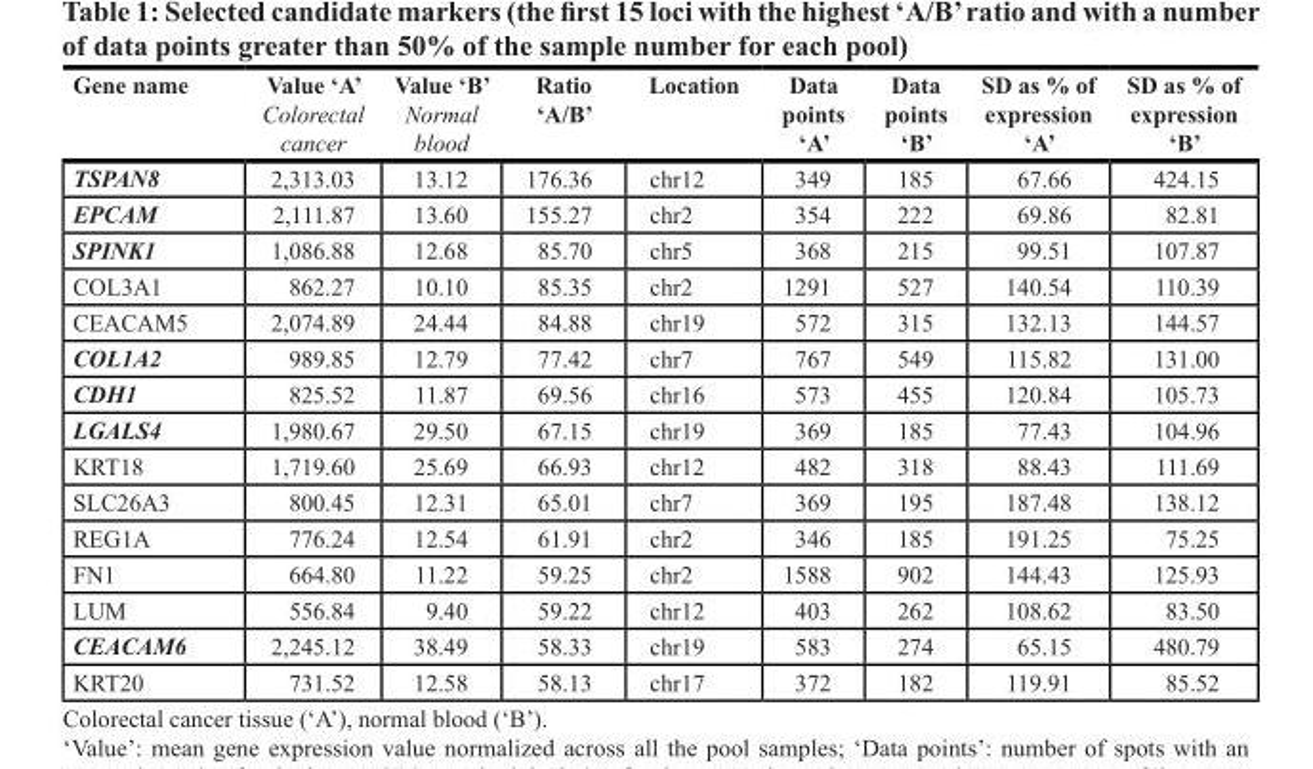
<table><thead><tr><td>Gene name</td><td>Value ‘A’ Colorectal cancer</td><td>Value ‘B’ Normal blood</td><td>Ratio ‘A/B’</td><td>Location</td><td>Data points ‘A’</td><td>Data points ‘B’</td><td>SD as % of expression ‘A’</td><td>SD as % of expression ‘B’</td></tr></thead><tbody><tr><td>TSPAN8</td><td>2,313.03</td><td>13.12</td><td>176.36</td><td>chr12</td><td>349</td><td>185</td><td>67.66</td><td>424.15</td></tr><tr><td>EPCAM</td><td>2,111.87</td><td>13.60</td><td>155.27</td><td>chr2</td><td>354</td><td>222</td><td>69.86</td><td>82.81</td></tr><tr><td>SPINK1</td><td>1,086.88</td><td>12.68</td><td>85.70</td><td>chr5</td><td>368</td><td>215</td><td>99.51</td><td>107.87</td></tr><tr><td>COL3A1</td><td>862.27</td><td>10.10</td><td>85.35</td><td>chr2</td><td>1291</td><td>527</td><td>140.54</td><td>110.39</td></tr><tr><td>CEACAM5</td><td>2,074.89</td><td>24.44</td><td>84.88</td><td>chr19</td><td>572</td><td>315</td><td>132.13</td><td>144.57</td></tr><tr><td>COL1A2</td><td>989.85</td><td>12.79</td><td>77.42</td><td>chr7</td><td>767</td><td>549</td><td>115.82</td><td>131.00</td></tr><tr><td>CDH1</td><td>825.52</td><td>11.87</td><td>69.56</td><td>chr16</td><td>573</td><td>455</td><td>120.84</td><td>105.73</td></tr><tr><td>LGALS4</td><td>1,980.67</td><td>29.50</td><td>67.15</td><td>chr19</td><td>369</td><td>185</td><td>77.43</td><td>104.96</td></tr><tr><td>KRT18</td><td>1,719.60</td><td>25.69</td><td>66.93</td><td>chr12</td><td>482</td><td>318</td><td>88.43</td><td>111.69</td></tr><tr><td>SLC26A3</td><td>800.45</td><td>12.31</td><td>65.01</td><td>chr7</td><td>369</td><td>195</td><td>187.48</td><td>138.12</td></tr><tr><td>REG1A</td><td>776.24</td><td>12.54</td><td>61.91</td><td>chr2</td><td>346</td><td>185</td><td>191.25</td><td>75.25</td></tr><tr><td>FN1</td><td>664.80</td><td>11.22</td><td>59.25</td><td>chr2</td><td>1588</td><td>902</td><td>144.43</td><td>125.93</td></tr><tr><td>LUM</td><td>556.84</td><td>9.40</td><td>59.22</td><td>chr12</td><td>403</td><td>262</td><td>108.62</td><td>83.50</td></tr><tr><td>CEACAM6</td><td>2,245.12</td><td>38.49</td><td>58.33</td><td>chr19</td><td>583</td><td>274</td><td>65.15</td><td>480.79</td></tr><tr><td>KRT20</td><td>731.52</td><td>12.58</td><td>58.13</td><td>chr17</td><td>372</td><td>182</td><td>119.91</td><td>85.52</td></tr></tbody></table>